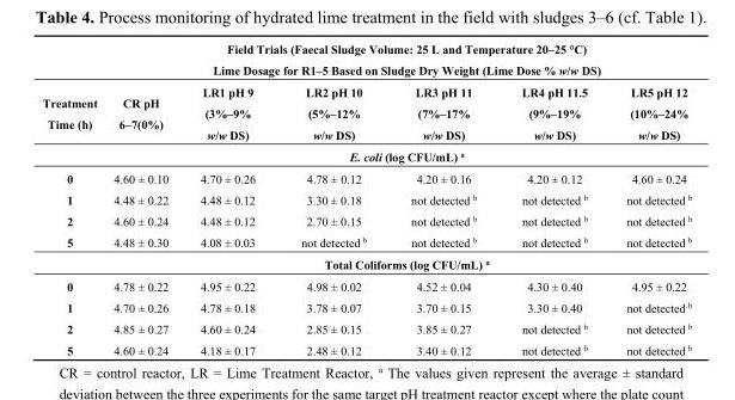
<table><thead><tr><td rowspan="2">Treatment Time (h)</td><td colspan="6">Field Trials (Faecal Sludge Volume: 25 L and Temperature 20–25 °C) Lime Dosage for R1–5 Based on Sludge Dry Weight (Lime Dose % w/w DS)</td></tr><tr><td>CR pH 6–7(0%)</td><td>LR1 pH 9 (3%–9% w/w DS)</td><td>LR2 pH 10 (5%–12% w/w DS)</td><td>LR3 pH 11 (7%–17% w/w DS)</td><td>LR4 pH 11.5 (9%–19% w/w DS)</td><td>LR5 pH 12 (10%–24% w/w DS)</td></tr></thead><tbody><tr><td></td><td colspan="6">E. coli (log CFU/mL) <sup>a</sup></td></tr><tr><td>0</td><td>4.60 ± 0.10</td><td>4.70 ± 0.26</td><td>4.78 ± 0.12</td><td>4.20 ± 0.16</td><td>4.20 ± 0.12</td><td>4.60 ± 0.24</td></tr><tr><td>1</td><td>4.48 ± 0.22</td><td>4.48 ± 0.12</td><td>3.30 ± 0.18</td><td>not detected <sup>b</sup></td><td>not detected <sup>b</sup></td><td>not detected <sup>b</sup></td></tr><tr><td>2</td><td>4.60 ± 0.24</td><td>4.48 ± 0.12</td><td>2.70 ± 0.15</td><td>not detected <sup>b</sup></td><td>not detected <sup>b</sup></td><td>not detected <sup>b</sup></td></tr><tr><td rowspan="2">5</td><td>4.48 ± 0.30</td><td>4.08 ± 0.03</td><td>not detected <sup>b</sup></td><td>not detected <sup>b</sup></td><td>not detected <sup>b</sup></td><td>not detected <sup>b</sup></td></tr><tr><td colspan="6">Total Coliforms (log CFU/mL) <sup>a</sup></td></tr><tr><td>0</td><td>4.78 ± 0.22</td><td>4.95 ± 0.22</td><td>4.98 ± 0.02</td><td>4.52 ± 0.04</td><td>4.30 ± 0.40</td><td>4.95 ± 0.22</td></tr><tr><td>1</td><td>4.70 ± 0.26</td><td>4.78 ± 0.18</td><td>3.78 ± 0.07</td><td>3.70 ± 0.15</td><td>3.30 ± 0.40</td><td>not detected <sup>b</sup></td></tr><tr><td>2</td><td>4.85 ± 0.27</td><td>4.60 ± 0.24</td><td>2.85 ± 0.15</td><td>3.85 ± 0.27</td><td>not detected <sup>b</sup></td><td>not detected <sup>b</sup></td></tr><tr><td>5</td><td>4.60 ± 0.24</td><td>4.18 ± 0.17</td><td>2.48 ± 0.12</td><td>3.40 ± 0.12</td><td>not detected <sup>b</sup></td><td>not detected <sup>b</sup></td></tr></tbody></table>